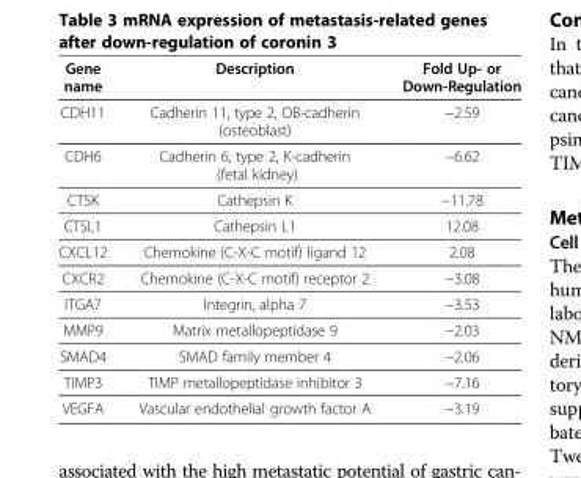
<table><thead><tr><td>Gene name</td><td>Description</td><td>Fold Up- or Down-Regulation</td></tr></thead><tbody><tr><td>CDH11</td><td>Cadherin 11, type 2, OB-cadherin (osteoblast)</td><td>−2.59</td></tr><tr><td>CDH6</td><td>Cadherin 6, type 2, K-cadherin (fetal kidney)</td><td>−6.62</td></tr><tr><td>CTSK</td><td>Cathepsin K</td><td>−11.78</td></tr><tr><td>CTSL1</td><td>Cathepsin L1</td><td>12.08</td></tr><tr><td>CXCL12</td><td>Chemokine (C-X-C motif) ligand 12</td><td>2.08</td></tr><tr><td>CXCR2</td><td>Chemokine (C-X-C motif) receptor 2</td><td>−3.08</td></tr><tr><td>ITGA7</td><td>Integrin, alpha 7</td><td>−3.53</td></tr><tr><td>MMP9</td><td>Matrix metallopeptidase 9</td><td>−2.03</td></tr><tr><td>SMAD4</td><td>SMAD family member 4</td><td>−2.06</td></tr><tr><td>TIMP3</td><td>TIMP metallopeptidase inhibitor 3</td><td>−7.16</td></tr><tr><td>VEGFA</td><td>Vascular endothelial growth factor A</td><td>−3.19</td></tr></tbody></table>